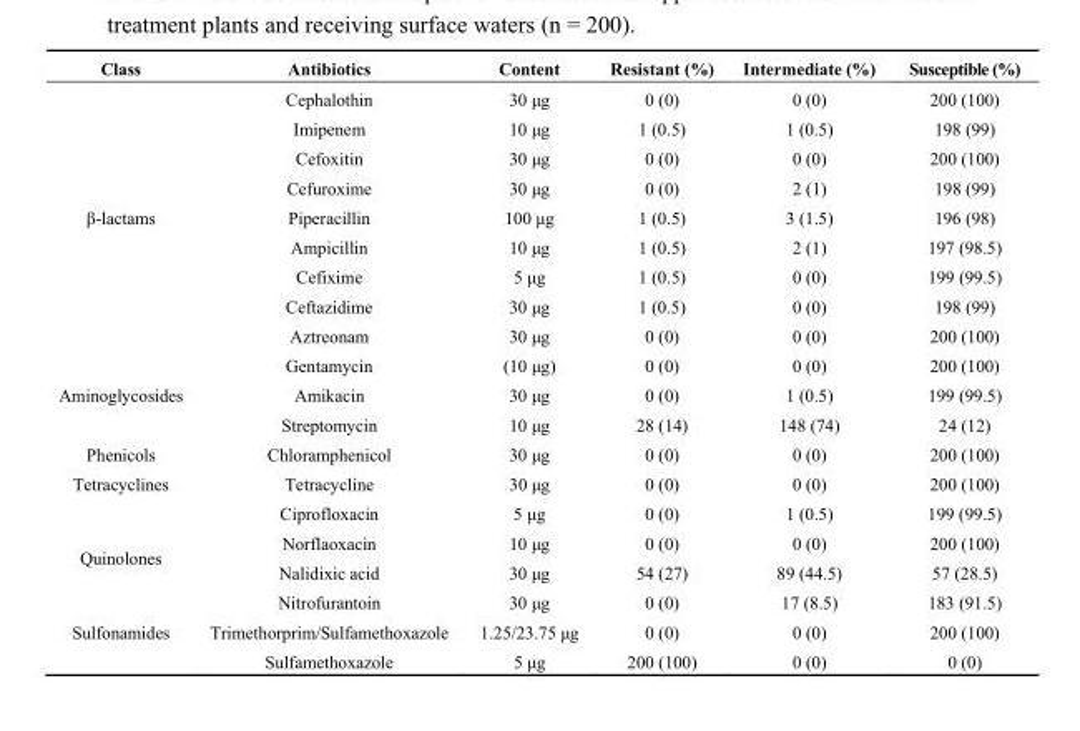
<table><thead><tr><td>Class</td><td>Antibiotics</td><td>Content</td><td>Resistant (%)</td><td>Intermediate (%)</td><td>Susceptible (%)</td></tr></thead><tbody><tr><td rowspan="9">β-lactams</td><td>Cephalothin</td><td>30 μg</td><td>0 (0)</td><td>0 (0)</td><td>200 (100)</td></tr><tr><td>Imipenem</td><td>10 μg</td><td>1 (0.5)</td><td>1 (0.5)</td><td>198 (99)</td></tr><tr><td>Cefoxitin</td><td>30 μg</td><td>0 (0)</td><td>0 (0)</td><td>200 (100)</td></tr><tr><td>Cefuroxime</td><td>30 μg</td><td>0 (0)</td><td>2 (1)</td><td>198 (99)</td></tr><tr><td>Piperacillin</td><td>100 μg</td><td>1 (0.5)</td><td>3 (1.5)</td><td>196 (98)</td></tr><tr><td>Ampicillin</td><td>10 μg</td><td>1 (0.5)</td><td>2 (1)</td><td>197 (98.5)</td></tr><tr><td>Cefixime</td><td>5 μg</td><td>1 (0.5)</td><td>0 (0)</td><td>199 (99.5)</td></tr><tr><td>Ceftazidime</td><td>30 μg</td><td>1 (0.5)</td><td>0 (0)</td><td>198 (99)</td></tr><tr><td>Aztreonam</td><td>30 μg</td><td>0 (0)</td><td>0 (0)</td><td>200 (100)</td></tr><tr><td rowspan="3">Aminoglycosides</td><td>Gentamycin</td><td>(10 μg)</td><td>0 (0)</td><td>0 (0)</td><td>200 (100)</td></tr><tr><td>Amikacin</td><td>30 μg</td><td>0 (0)</td><td>1 (0.5)</td><td>199 (99.5)</td></tr><tr><td>Streptomycin</td><td>10 μg</td><td>28 (14)</td><td>148 (74)</td><td>24 (12)</td></tr><tr><td>Phenicols</td><td>Chloramphenicol</td><td>30 μg</td><td>0 (0)</td><td>0 (0)</td><td>200 (100)</td></tr><tr><td>Tetracyclines</td><td>Tetracycline</td><td>30 μg</td><td>0 (0)</td><td>0 (0)</td><td>200 (100)</td></tr><tr><td rowspan="4">Quinolones</td><td>Ciprofloxacin</td><td>5 μg</td><td>0 (0)</td><td>1 (0.5)</td><td>199 (99.5)</td></tr><tr><td>Norflaoxacin</td><td>10 μg</td><td>0 (0)</td><td>0 (0)</td><td>200 (100)</td></tr><tr><td>Nalidixic acid</td><td>30 μg</td><td>54 (27)</td><td>89 (44.5)</td><td>57 (28.5)</td></tr><tr><td>Nitrofurantoin</td><td>30 μg</td><td>0 (0)</td><td>17 (8.5)</td><td>183 (91.5)</td></tr><tr><td rowspan="2">Sulfonamides</td><td>Trimethorprim/Sulfamethoxazole</td><td>1.25/23.75 μg</td><td>0 (0)</td><td>0 (0)</td><td>200 (100)</td></tr><tr><td>Sulfamethoxazole</td><td>5 μg</td><td>200 (100)</td><td>0 (0)</td><td>0 (0)</td></tr></tbody></table>